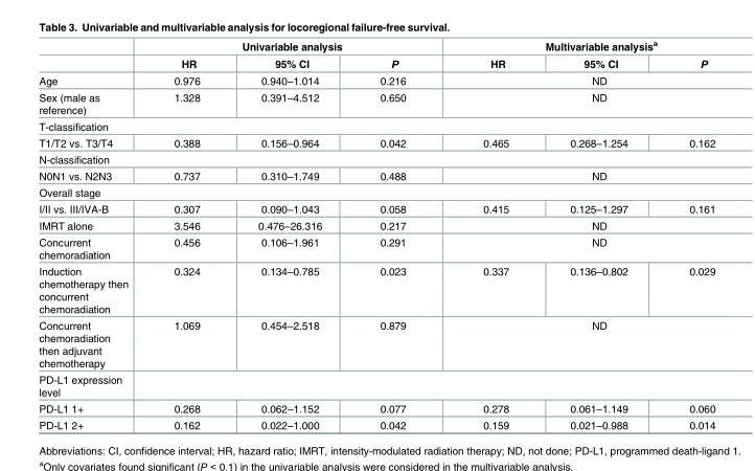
<table><thead><tr><td rowspan="2"></td><td colspan="3">Univariable analysis</td><td colspan="3">Multivariable analysis<sup>a</sup></td></tr><tr><td>HR</td><td>95% CI</td><td>P</td><td>HR</td><td>95% CI</td><td>P</td></tr></thead><tbody><tr><td>Age</td><td>0.976</td><td>0.940–1.014</td><td>0.216</td><td colspan="3">ND</td></tr><tr><td>Sex (male as reference)</td><td>1.328</td><td>0.391–4.512</td><td>0.650</td><td colspan="3">ND</td></tr><tr><td colspan="7">T-classification</td></tr><tr><td>T1/T2 vs. T3/T4</td><td>0.388</td><td>0.156–0.964</td><td>0.042</td><td>0.465</td><td>0.268–1.254</td><td>0.162</td></tr><tr><td colspan="7">N-classification</td></tr><tr><td>N0N1 vs. N2N3</td><td>0.737</td><td>0.310–1.749</td><td>0.488</td><td colspan="3">ND</td></tr><tr><td colspan="7">Overall stage</td></tr><tr><td>I/II vs. III/IVA-B</td><td>0.307</td><td>0.090–1.043</td><td>0.058</td><td>0.415</td><td>0.125–1.297</td><td>0.161</td></tr><tr><td>IMRT alone</td><td>3.546</td><td>0.476–26.316</td><td>0.217</td><td colspan="3">ND</td></tr><tr><td>Concurrent chemoradiation</td><td>0.456</td><td>0.106–1.961</td><td>0.291</td><td colspan="3">ND</td></tr><tr><td>Induction chemotherapy then concurrent chemoradiation</td><td>0.324</td><td>0.134–0.785</td><td>0.023</td><td>0.337</td><td>0.136–0.802</td><td>0.029</td></tr><tr><td>Concurrent chemoradiation then adjuvant chemotherapy</td><td>1.069</td><td>0.454–2.518</td><td>0.879</td><td colspan="3">ND</td></tr><tr><td colspan="7">PD-L1 expression level</td></tr><tr><td>PD-L1 1+</td><td>0.268</td><td>0.062–1.152</td><td>0.077</td><td>0.278</td><td>0.061–1.149</td><td>0.060</td></tr><tr><td>PD-L1 2+</td><td>0.162</td><td>0.022–1.000</td><td>0.042</td><td>0.159</td><td>0.021–0.988</td><td>0.014</td></tr></tbody></table>